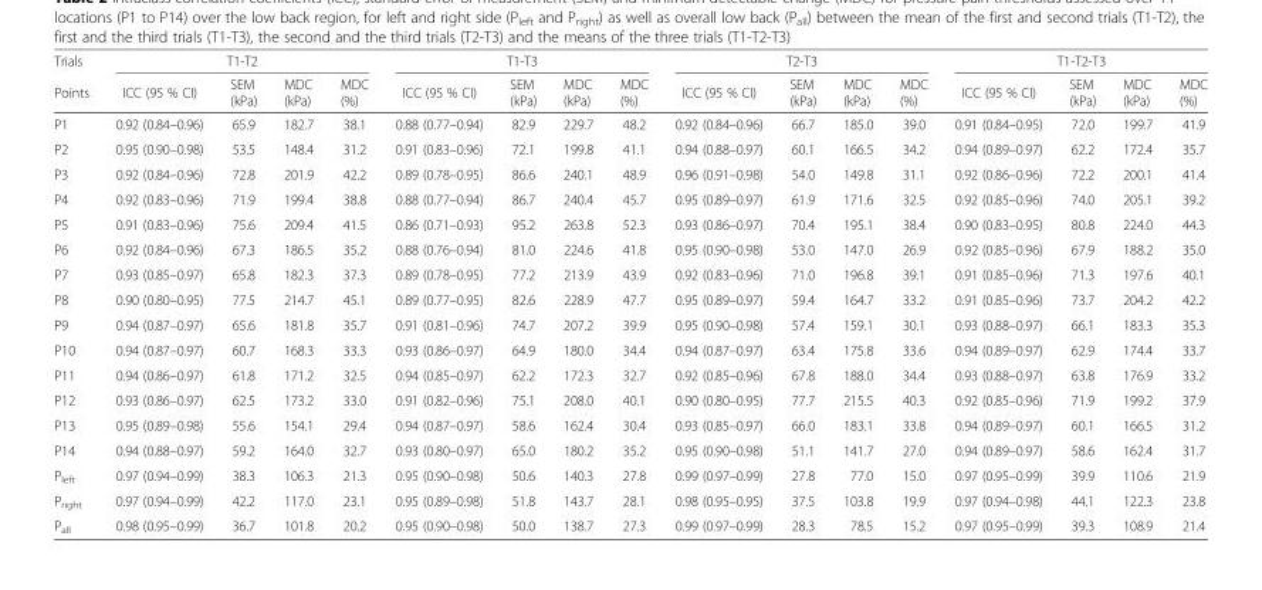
<table><thead><tr><td rowspan="2">Trials Points</td><td colspan="4">T1-T2</td><td colspan="4">T1-T3</td><td colspan="4">T2-T3</td><td colspan="4">T1-T2-T3</td></tr><tr><td>ICC (95 % CI)</td><td>SEM (kPa)</td><td>MDC (kPa)</td><td>MDC (%)</td><td>ICC (95 % CI)</td><td>SEM (kPa)</td><td>MDC (kPa)</td><td>MDC (%)</td><td>ICC (95 % CI)</td><td>SEM (kPa)</td><td>MDC (kPa)</td><td>MDC (%)</td><td>ICC (95 % CI)</td><td>SEM (kPa)</td><td>MDC (kPa)</td><td>MDC (%)</td></tr></thead><tbody><tr><td>P1</td><td>0.92 (0.84–0.96)</td><td>65.9</td><td>182.7</td><td>38.1</td><td>0.88 (0.77–0.94)</td><td>82.9</td><td>229.7</td><td>48.2</td><td>0.92 (0.84–0.96)</td><td>66.7</td><td>185.0</td><td>39.0</td><td>0.91 (0.84–0.95)</td><td>72.0</td><td>199.7</td><td>41.9</td></tr><tr><td>P2</td><td>0.95 (0.90–0.98)</td><td>53.5</td><td>148.4</td><td>31.2</td><td>0.91 (0.83–0.96)</td><td>72.1</td><td>199.8</td><td>41.1</td><td>0.94 (0.88–0.97)</td><td>60.1</td><td>166.5</td><td>34.2</td><td>0.94 (0.89–0.97)</td><td>62.2</td><td>172.4</td><td>35.7</td></tr><tr><td>P3</td><td>0.92 (0.84–0.96)</td><td>72.8</td><td>201.9</td><td>42.2</td><td>0.89 (0.78–0.95)</td><td>86.6</td><td>240.1</td><td>48.9</td><td>0.96 (0.91–0.98)</td><td>54.0</td><td>149.8</td><td>31.1</td><td>0.92 (0.86–0.96)</td><td>72.2</td><td>200.1</td><td>41.4</td></tr><tr><td>P4</td><td>0.92 (0.83–0.96)</td><td>71.9</td><td>199.4</td><td>38.8</td><td>0.88 (0.77–0.94)</td><td>86.7</td><td>240.4</td><td>45.7</td><td>0.95 (0.89–0.97)</td><td>61.9</td><td>171.6</td><td>32.5</td><td>0.92 (0.85–0.96)</td><td>74.0</td><td>205.1</td><td>39.2</td></tr><tr><td>P5</td><td>0.91 (0.83–0.96)</td><td>75.6</td><td>209.4</td><td>41.5</td><td>0.86 (0.71–0.93)</td><td>95.2</td><td>263.8</td><td>52.3</td><td>0.93 (0.86–0.97)</td><td>70.4</td><td>195.1</td><td>38.4</td><td>0.90 (0.83–0.95)</td><td>80.8</td><td>224.0</td><td>44.3</td></tr><tr><td>P6</td><td>0.92 (0.84–0.96)</td><td>67.3</td><td>186.5</td><td>35.2</td><td>0.88 (0.76–0.94)</td><td>81.0</td><td>224.6</td><td>41.8</td><td>0.95 (0.90–0.98)</td><td>53.0</td><td>147.0</td><td>26.9</td><td>0.92 (0.85–0.96)</td><td>67.9</td><td>188.2</td><td>35.0</td></tr><tr><td>P7</td><td>0.93 (0.85–0.97)</td><td>65.8</td><td>182.3</td><td>37.3</td><td>0.89 (0.78–0.95)</td><td>77.2</td><td>213.9</td><td>43.9</td><td>0.92 (0.83–0.96)</td><td>71.0</td><td>196.8</td><td>39.1</td><td>0.91 (0.85–0.96)</td><td>71.3</td><td>197.6</td><td>40.1</td></tr><tr><td>P8</td><td>0.90 (0.80–0.95)</td><td>77.5</td><td>214.7</td><td>45.1</td><td>0.89 (0.77–0.95)</td><td>82.6</td><td>228.9</td><td>47.7</td><td>0.95 (0.89–0.97)</td><td>59.4</td><td>164.7</td><td>33.2</td><td>0.91 (0.85–0.96)</td><td>73.7</td><td>204.2</td><td>42.2</td></tr><tr><td>P9</td><td>0.94 (0.87–0.97)</td><td>65.6</td><td>181.8</td><td>35.7</td><td>0.91 (0.81–0.96)</td><td>74.7</td><td>207.2</td><td>39.9</td><td>0.95 (0.90–0.98)</td><td>57.4</td><td>159.1</td><td>30.1</td><td>0.93 (0.88–0.97)</td><td>66.1</td><td>183.3</td><td>35.3</td></tr><tr><td>P10</td><td>0.94 (0.87–0.97)</td><td>60.7</td><td>168.3</td><td>33.3</td><td>0.93 (0.86–0.97)</td><td>64.9</td><td>180.0</td><td>34.4</td><td>0.94 (0.87–0.97)</td><td>63.4</td><td>175.8</td><td>33.6</td><td>0.94 (0.89–0.97)</td><td>62.9</td><td>174.4</td><td>33.7</td></tr><tr><td>P11</td><td>0.94 (0.86–0.97)</td><td>61.8</td><td>171.2</td><td>32.5</td><td>0.94 (0.85–0.97)</td><td>62.2</td><td>172.3</td><td>32.7</td><td>0.92 (0.85–0.96)</td><td>67.8</td><td>188.0</td><td>34.4</td><td>0.93 (0.88–0.97)</td><td>63.8</td><td>176.9</td><td>33.2</td></tr><tr><td>P12</td><td>0.93 (0.86–0.97)</td><td>62.5</td><td>173.2</td><td>33.0</td><td>0.91 (0.82–0.96)</td><td>75.1</td><td>208.0</td><td>40.1</td><td>0.90 (0.80–0.95)</td><td>77.7</td><td>215.5</td><td>40.3</td><td>0.92 (0.85–0.96)</td><td>71.9</td><td>199.2</td><td>37.9</td></tr><tr><td>P13</td><td>0.95 (0.89–0.98)</td><td>55.6</td><td>154.1</td><td>29.4</td><td>0.94 (0.87–0.97)</td><td>58.6</td><td>162.4</td><td>30.4</td><td>0.93 (0.85–0.97)</td><td>66.0</td><td>183.1</td><td>33.8</td><td>0.94 (0.89–0.97)</td><td>60.1</td><td>166.5</td><td>31.2</td></tr><tr><td>P14</td><td>0.94 (0.88–0.97)</td><td>59.2</td><td>164.0</td><td>32.7</td><td>0.93 (0.80–0.97)</td><td>65.0</td><td>180.2</td><td>35.2</td><td>0.95 (0.90–0.98)</td><td>51.1</td><td>141.7</td><td>27.0</td><td>0.94 (0.89–0.97)</td><td>58.6</td><td>162.4</td><td>31.7</td></tr><tr><td>P<sub>left</sub></td><td>0.97 (0.94–0.99)</td><td>38.3</td><td>106.3</td><td>21.3</td><td>0.95 (0.90–0.98)</td><td>50.6</td><td>140.3</td><td>27.8</td><td>0.99 (0.97–0.99)</td><td>27.8</td><td>77.0</td><td>15.0</td><td>0.97 (0.95–0.99)</td><td>39.9</td><td>110.6</td><td>21.9</td></tr><tr><td>P<sub>right</sub></td><td>0.97 (0.94–0.99)</td><td>42.2</td><td>117.0</td><td>23.1</td><td>0.95 (0.89–0.98)</td><td>51.8</td><td>143.7</td><td>28.1</td><td>0.98 (0.95–0.95)</td><td>37.5</td><td>103.8</td><td>19.9</td><td>0.97 (0.94–0.98)</td><td>44.1</td><td>122.3</td><td>23.8</td></tr><tr><td>P<sub>all</sub></td><td>0.98 (0.95–0.99)</td><td>36.7</td><td>101.8</td><td>20.2</td><td>0.95 (0.90–0.98)</td><td>50.0</td><td>138.7</td><td>27.3</td><td>0.99 (0.97–0.99)</td><td>28.3</td><td>78.5</td><td>15.2</td><td>0.97 (0.95–0.99)</td><td>39.3</td><td>108.9</td><td>21.4</td></tr></tbody></table>